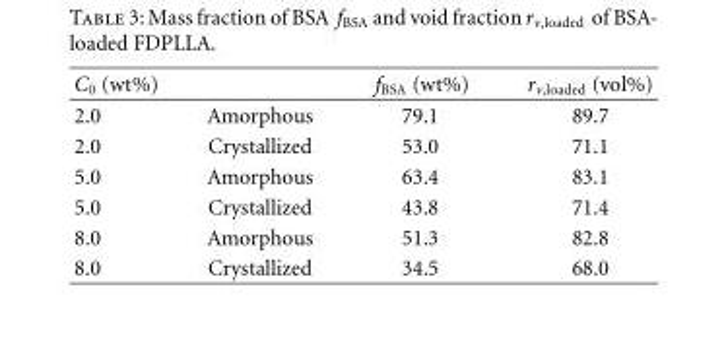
<table><thead><tr><td>C<sub>0</sub> (wt%)</td><td></td><td>f<sub>BSA</sub> (wt%)</td><td>r<sub>v,loaded</sub> (vol%)</td></tr></thead><tbody><tr><td>2.0</td><td>Amorphous</td><td>79.1</td><td>89.7</td></tr><tr><td>2.0</td><td>Crystallized</td><td>53.0</td><td>71.1</td></tr><tr><td>5.0</td><td>Amorphous</td><td>63.4</td><td>83.1</td></tr><tr><td>5.0</td><td>Crystallized</td><td>43.8</td><td>71.4</td></tr><tr><td>8.0</td><td>Amorphous</td><td>51.3</td><td>82.8</td></tr><tr><td>8.0</td><td>Crystallized</td><td>34.5</td><td>68.0</td></tr></tbody></table>